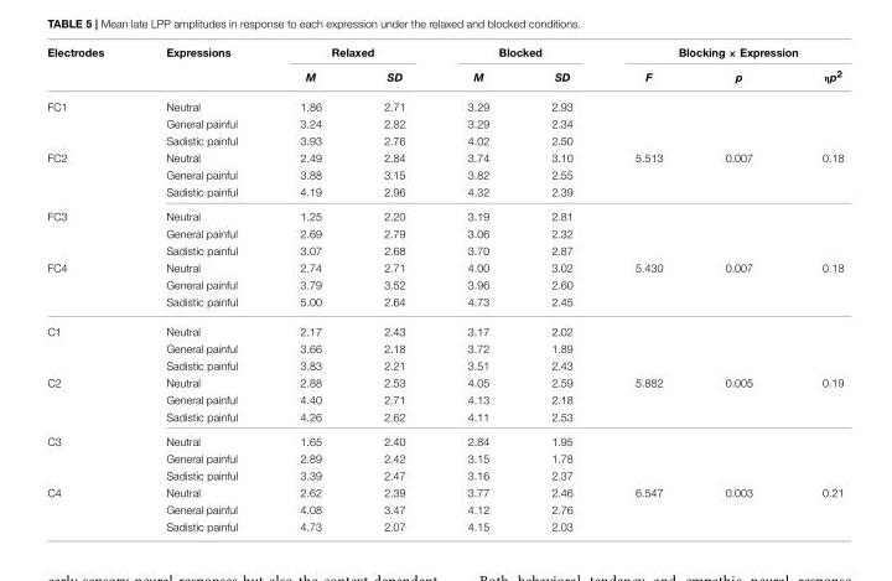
<table><thead><tr><td rowspan="2">Electrodes</td><td rowspan="2">Expressions</td><td colspan="2">Relaxed</td><td colspan="2">Blocked</td><td colspan="3">Blocking × Expression</td></tr><tr><td>M</td><td>SD</td><td>M</td><td>SD</td><td>F</td><td>p</td><td>ηp<sup>2</sup></td></tr></thead><tbody><tr><td rowspan="3">FC1</td><td>Neutral</td><td>1.86</td><td>2.71</td><td>3.29</td><td>2.93</td><td></td><td></td><td></td></tr><tr><td>General painful</td><td>3.24</td><td>2.82</td><td>3.29</td><td>2.34</td><td></td><td></td><td></td></tr><tr><td>Sadistic painful</td><td>3.93</td><td>2.76</td><td>4.02</td><td>2.50</td><td></td><td></td><td></td></tr><tr><td rowspan="3">FC2</td><td>Neutral</td><td>2.49</td><td>2.84</td><td>3.74</td><td>3.10</td><td>5.513</td><td>0.007</td><td>0.18</td></tr><tr><td>General painful</td><td>3.88</td><td>3.15</td><td>3.82</td><td>2.55</td><td></td><td></td><td></td></tr><tr><td>Sadistic painful</td><td>4.19</td><td>2.96</td><td>4.32</td><td>2.39</td><td></td><td></td><td></td></tr><tr><td rowspan="3">FC3</td><td>Neutral</td><td>1.25</td><td>2.20</td><td>3.19</td><td>2.81</td><td></td><td></td><td></td></tr><tr><td>General painful</td><td>2.69</td><td>2.79</td><td>3.06</td><td>2.32</td><td></td><td></td><td></td></tr><tr><td>Sadistic painful</td><td>3.07</td><td>2.68</td><td>3.70</td><td>2.87</td><td></td><td></td><td></td></tr><tr><td rowspan="3">FC4</td><td>Neutral</td><td>2.74</td><td>2.71</td><td>4.00</td><td>3.02</td><td>5.430</td><td>0.007</td><td>0.18</td></tr><tr><td>General painful</td><td>3.79</td><td>3.52</td><td>3.96</td><td>2.60</td><td></td><td></td><td></td></tr><tr><td>Sadistic painful</td><td>5.00</td><td>2.64</td><td>4.73</td><td>2.45</td><td></td><td></td><td></td></tr><tr><td rowspan="3">C1</td><td>Neutral</td><td>2.17</td><td>2.43</td><td>3.17</td><td>2.02</td><td></td><td></td><td></td></tr><tr><td>General painful</td><td>3.66</td><td>2.18</td><td>3.72</td><td>1.89</td><td></td><td></td><td></td></tr><tr><td>Sadistic painful</td><td>3.83</td><td>2.21</td><td>3.51</td><td>2.43</td><td></td><td></td><td></td></tr><tr><td rowspan="3">C2</td><td>Neutral</td><td>2.88</td><td>2.53</td><td>4.05</td><td>2.59</td><td>5.882</td><td>0.005</td><td>0.19</td></tr><tr><td>General painful</td><td>4.40</td><td>2.71</td><td>4.13</td><td>2.18</td><td></td><td></td><td></td></tr><tr><td>Sadistic painful</td><td>4.26</td><td>2.62</td><td>4.11</td><td>2.53</td><td></td><td></td><td></td></tr><tr><td rowspan="3">C3</td><td>Neutral</td><td>1.65</td><td>2.40</td><td>2.84</td><td>1.95</td><td></td><td></td><td></td></tr><tr><td>General painful</td><td>2.89</td><td>2.42</td><td>3.15</td><td>1.78</td><td></td><td></td><td></td></tr><tr><td>Sadistic painful</td><td>3.39</td><td>2.47</td><td>3.16</td><td>2.37</td><td></td><td></td><td></td></tr><tr><td rowspan="3">C4</td><td>Neutral</td><td>2.62</td><td>2.39</td><td>3.77</td><td>2.46</td><td>6.547</td><td>0.003</td><td>0.21</td></tr><tr><td>General painful</td><td>4.08</td><td>3.47</td><td>4.12</td><td>2.76</td><td></td><td></td><td></td></tr><tr><td>Sadistic painful</td><td>4.73</td><td>2.07</td><td>4.15</td><td>2.03</td><td></td><td></td><td></td></tr></tbody></table>